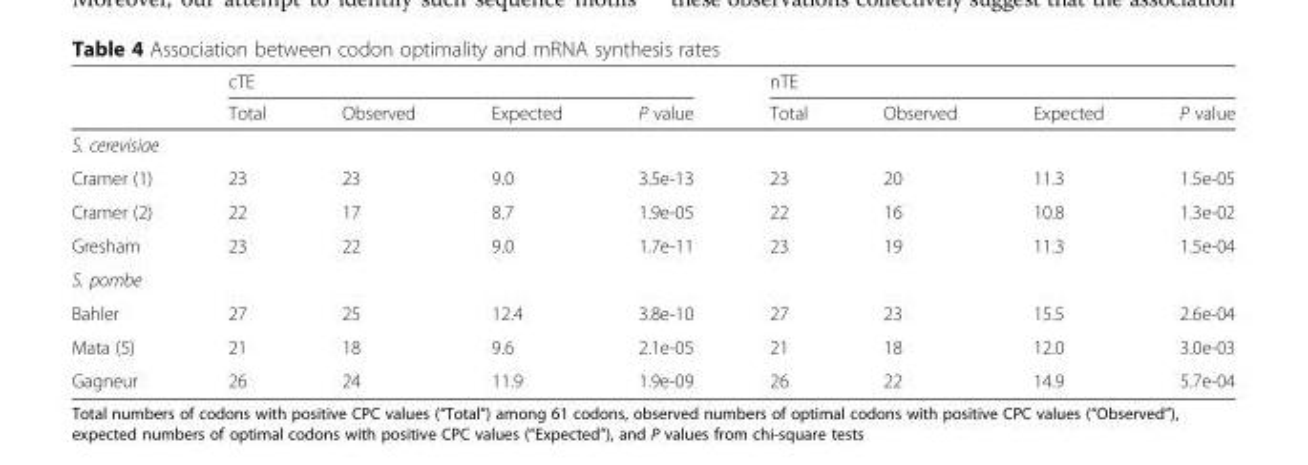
<table><thead><tr><td rowspan="2"></td><td colspan="4">cTE</td><td colspan="4">nTE</td></tr><tr><td>Total</td><td>Observed</td><td>Expected</td><td>P value</td><td>Total</td><td>Observed</td><td>Expected</td><td>P value</td></tr></thead><tbody><tr><td colspan="9">S. cerevisiae</td></tr><tr><td>Cramer (1)</td><td>23</td><td>23</td><td>9.0</td><td>3.5e-13</td><td>23</td><td>20</td><td>11.3</td><td>1.5e-05</td></tr><tr><td>Cramer (2)</td><td>22</td><td>17</td><td>8.7</td><td>1.9e-05</td><td>22</td><td>16</td><td>10.8</td><td>1.3e-02</td></tr><tr><td>Gresham</td><td>23</td><td>22</td><td>9.0</td><td>1.7e-11</td><td>23</td><td>19</td><td>11.3</td><td>1.5e-04</td></tr><tr><td colspan="9">S. pombe</td></tr><tr><td>Bahler</td><td>27</td><td>25</td><td>12.4</td><td>3.8e-10</td><td>27</td><td>23</td><td>15.5</td><td>2.6e-04</td></tr><tr><td>Mata (5)</td><td>21</td><td>18</td><td>9.6</td><td>2.1e-05</td><td>21</td><td>18</td><td>12.0</td><td>3.0e-03</td></tr><tr><td>Gagneur</td><td>26</td><td>24</td><td>11.9</td><td>1.9e-09</td><td>26</td><td>22</td><td>14.9</td><td>5.7e-04</td></tr></tbody></table>